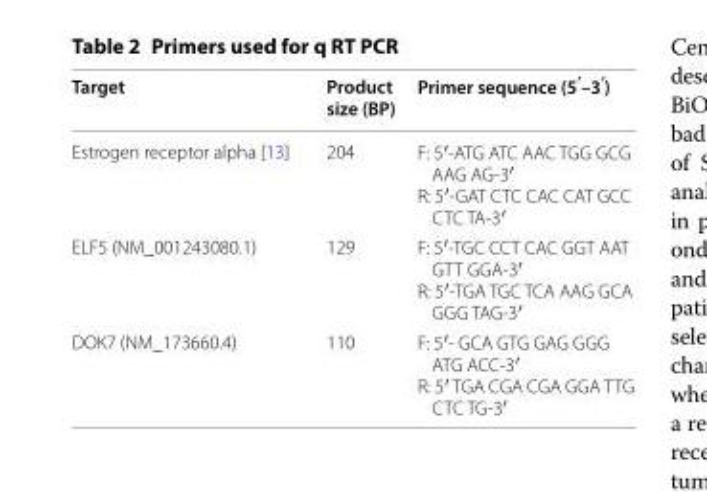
<table><thead><tr><td>Target</td><td>Product size (BP)</td><td>Primer sequence (5<sup>′</sup>–3<sup>′</sup>)</td></tr></thead><tbody><tr><td>Estrogen receptor alpha [13]</td><td>204</td><td>F: 5′-ATG ATC AAC TGG GCG AAG AG-3′ R: 5′-GAT CTC CAC CAT GCC CTC TA-3′</td></tr><tr><td>ELF5 (NM_001243080.1)</td><td>129</td><td>F: 5′-TGC CCT CAC GGT AAT GTT GGA-3′ R: 5′-TGA TGC TCA AAG GCA GGG TAG-3′</td></tr><tr><td>DOK7 (NM_173660.4)</td><td>110</td><td>F: 5′- GCA GTG GAG GGG ATG ACC-3′ R: 5′ TGA CGA CGA GGA TTG CTC TG-3′</td></tr></tbody></table>